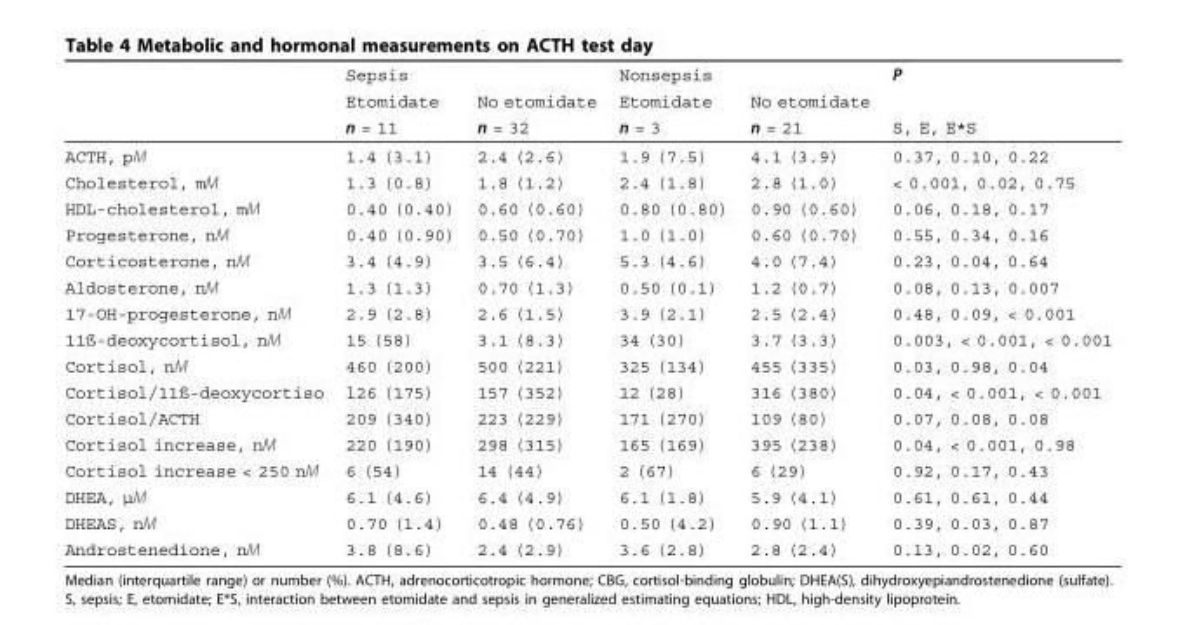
<table><thead><tr><td rowspan="3"></td><td colspan="2">Sepsis</td><td colspan="2">Nonsepsis</td><td rowspan="3">P S, E, E*S</td></tr><tr><td rowspan="2">Etomidate n = 11</td><td rowspan="2">No etomidate n = 32</td><td rowspan="2">Etomidate n = 3</td><td rowspan="2">No etomidate n = 21</td></tr><tr></tr></thead><tbody><tr><td>ACTH, pM</td><td>1.4 (3.1)</td><td>2.4 (2.6)</td><td>1.9 (7.5)</td><td>4.1 (3.9)</td><td>0.37, 0.10, 0.22</td></tr><tr><td>Cholesterol, mM</td><td>1.3 (0.8)</td><td>1.8 (1.2)</td><td>2.4 (1.8)</td><td>2.8 (1.0)</td><td>&lt; 0.001, 0.02, 0.75</td></tr><tr><td>HDL-cholesterol, mM</td><td>0.40 (0.40)</td><td>0.60 (0.60)</td><td>0.80 (0.80)</td><td>0.90 (0.60)</td><td>0.06, 0.18, 0.17</td></tr><tr><td>Progesterone, nM</td><td>0.40 (0.90)</td><td>0.50 (0.70)</td><td>1.0 (1.0)</td><td>0.60 (0.70)</td><td>0.55, 0.34, 0.16</td></tr><tr><td>Corticosterone, nM</td><td>3.4 (4.9)</td><td>3.5 (6.4)</td><td>5.3 (4.6)</td><td>4.0 (7.4)</td><td>0.23, 0.04, 0.64</td></tr><tr><td>Aldosterone, nM</td><td>1.3 (1.3)</td><td>0.70 (1.3)</td><td>0.50 (0.1)</td><td>1.2 (0.7)</td><td>0.08, 0.13, 0.007</td></tr><tr><td>17-OH-progesterone, nM</td><td>2.9 (2.8)</td><td>2.6 (1.5)</td><td>3.9 (2.1)</td><td>2.5 (2.4)</td><td>0.48, 0.09, &lt; 0.001</td></tr><tr><td>11ß-deoxycortisol, nM</td><td>15 (58)</td><td>3.1 (8.3)</td><td>34 (30)</td><td>3.7 (3.3)</td><td>0.003, &lt; 0.001, &lt; 0.001</td></tr><tr><td>Cortisol, nM</td><td>460 (200)</td><td>500 (221)</td><td>325 (134)</td><td>455 (335)</td><td>0.03, 0.98, 0.04</td></tr><tr><td>Cortisol/11ß-deoxycortiso</td><td>l26 (175)</td><td>157 (352)</td><td>12 (28)</td><td>316 (380)</td><td>0.04, &lt; 0.001, &lt; 0.001</td></tr><tr><td>Cortisol/ACTH</td><td>209 (340)</td><td>223 (229)</td><td>171 (270)</td><td>109 (80)</td><td>0.07, 0.08, 0.08</td></tr><tr><td>Cortisol increase, nM</td><td>220 (190)</td><td>298 (315)</td><td>165 (169)</td><td>395 (238)</td><td>0.04, &lt; 0.001, 0.98</td></tr><tr><td>Cortisol increase &lt; 250 nM</td><td>6 (54)</td><td>14 (44)</td><td>2 (67)</td><td>6 (29)</td><td>0.92, 0.17, 0.43</td></tr><tr><td>DHEA, μM</td><td>6.1 (4.6)</td><td>6.4 (4.9)</td><td>6.1 (1.8)</td><td>5.9 (4.1)</td><td>0.61, 0.61, 0.44</td></tr><tr><td>DHEAS, nM</td><td>0.70 (1.4)</td><td>0.48 (0.76)</td><td>0.50 (4.2)</td><td>0.90 (1.1)</td><td>0.39, 0.03, 0.87</td></tr><tr><td>Androstenedione, nM</td><td>3.8 (8.6)</td><td>2.4 (2.9)</td><td>3.6 (2.8)</td><td>2.8 (2.4)</td><td>0.13, 0.02, 0.60</td></tr></tbody></table>